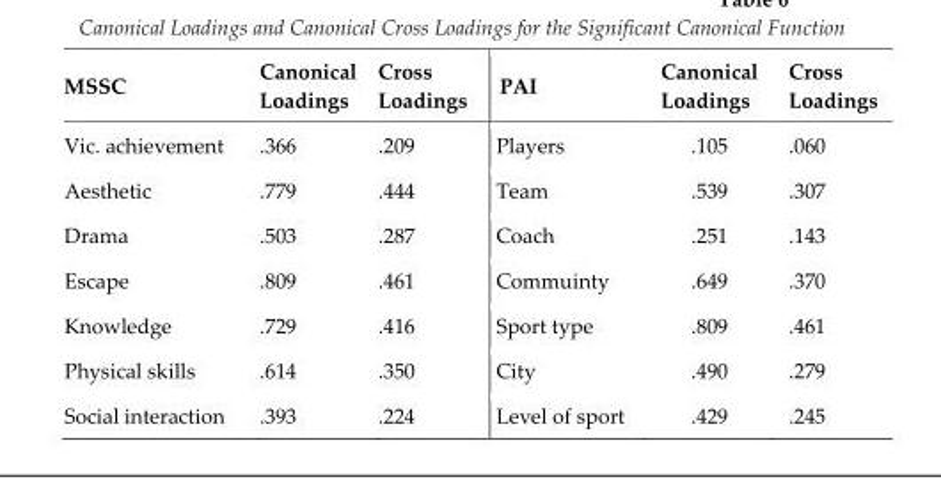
<table><thead><tr><td>MSSC</td><td>Canonical Loadings</td><td>Cross Loadings</td><td>PAI</td><td>Canonical Loadings</td><td>Cross Loadings</td></tr></thead><tbody><tr><td>Vic. achievement</td><td>.366</td><td>.209</td><td>Players</td><td>.105</td><td>.060</td></tr><tr><td>Aesthetic</td><td>.779</td><td>.444</td><td>Team</td><td>.539</td><td>.307</td></tr><tr><td>Drama</td><td>.503</td><td>.287</td><td>Coach</td><td>.251</td><td>.143</td></tr><tr><td>Escape</td><td>.809</td><td>.461</td><td>Commuinty</td><td>.649</td><td>.370</td></tr><tr><td>Knowledge</td><td>.729</td><td>.416</td><td>Sport type</td><td>.809</td><td>.461</td></tr><tr><td>Physical skills</td><td>.614</td><td>.350</td><td>City</td><td>.490</td><td>.279</td></tr><tr><td>Social interaction</td><td>.393</td><td>.224</td><td>Level of sport</td><td>.429</td><td>.245</td></tr></tbody></table>